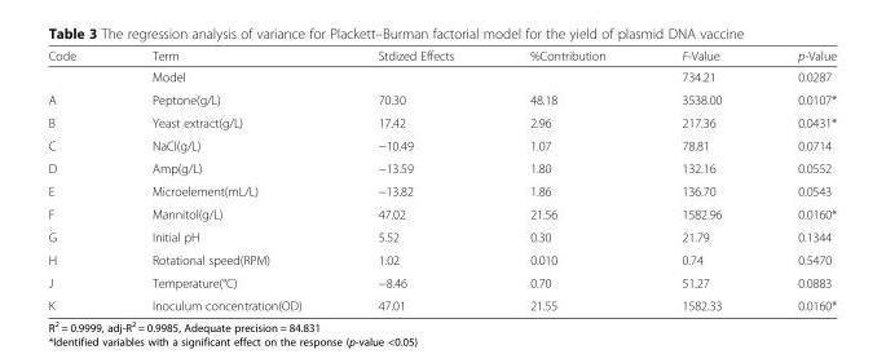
<table><thead><tr><td>Code</td><td>Term</td><td>Stdized Effects</td><td>%Contribution</td><td>F-Value</td><td>p-Value</td></tr></thead><tbody><tr><td></td><td>Model</td><td></td><td></td><td>734.21</td><td>0.0287</td></tr><tr><td>A</td><td>Peptone(g/L)</td><td>70.30</td><td>48.18</td><td>3538.00</td><td>0.0107*</td></tr><tr><td>B</td><td>Yeast extract(g/L)</td><td>17.42</td><td>2.96</td><td>217.36</td><td>0.0431*</td></tr><tr><td>C</td><td>NaCl(g/L)</td><td>−10.49</td><td>1.07</td><td>78.81</td><td>0.0714</td></tr><tr><td>D</td><td>Amp(g/L)</td><td>−13.59</td><td>1.80</td><td>132.16</td><td>0.0552</td></tr><tr><td>E</td><td>Microelement(mL/L)</td><td>−13.82</td><td>1.86</td><td>136.70</td><td>0.0543</td></tr><tr><td>F</td><td>Mannitol(g/L)</td><td>47.02</td><td>21.56</td><td>1582.96</td><td>0.0160*</td></tr><tr><td>G</td><td>Initial pH</td><td>5.52</td><td>0.30</td><td>21.79</td><td>0.1344</td></tr><tr><td>H</td><td>Rotational speed(RPM)</td><td>1.02</td><td>0.010</td><td>0.74</td><td>0.5470</td></tr><tr><td>J</td><td>Temperature(°C)</td><td>−8.46</td><td>0.70</td><td>51.27</td><td>0.0883</td></tr><tr><td>K</td><td>Inoculum concentration(OD)</td><td>47.01</td><td>21.55</td><td>1582.33</td><td>0.0160*</td></tr></tbody></table>